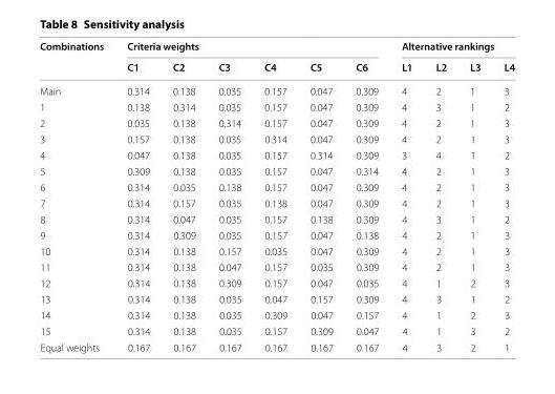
<table><thead><tr><td rowspan="2">Combinations</td><td colspan="6">Criteria weights</td><td colspan="4">Alternative rankings</td></tr><tr><td>C1</td><td>C2</td><td>C3</td><td>C4</td><td>C5</td><td>C6</td><td>L1</td><td>L2</td><td>L3</td><td>L4</td></tr></thead><tbody><tr><td>Main</td><td>0.314</td><td>0.138</td><td>0.035</td><td>0.157</td><td>0.047</td><td>0.309</td><td>4</td><td>2</td><td>1</td><td>3</td></tr><tr><td>1</td><td>0.138</td><td>0.314</td><td>0.035</td><td>0.157</td><td>0.047</td><td>0.309</td><td>4</td><td>3</td><td>1</td><td>2</td></tr><tr><td>2</td><td>0.035</td><td>0.138</td><td>0.314</td><td>0.157</td><td>0.047</td><td>0.309</td><td>4</td><td>2</td><td>1</td><td>3</td></tr><tr><td>3</td><td>0.157</td><td>0.138</td><td>0.035</td><td>0.314</td><td>0.047</td><td>0.309</td><td>4</td><td>2</td><td>1</td><td>3</td></tr><tr><td>4</td><td>0.047</td><td>0.138</td><td>0.035</td><td>0.157</td><td>0.314</td><td>0.309</td><td>3</td><td>4</td><td>1</td><td>2</td></tr><tr><td>5</td><td>0.309</td><td>0.138</td><td>0.035</td><td>0.157</td><td>0.047</td><td>0.314</td><td>4</td><td>2</td><td>1</td><td>3</td></tr><tr><td>6</td><td>0.314</td><td>0.035</td><td>0.138</td><td>0.157</td><td>0.047</td><td>0.309</td><td>4</td><td>2</td><td>1</td><td>3</td></tr><tr><td>7</td><td>0.314</td><td>0.157</td><td>0.035</td><td>0.138</td><td>0.047</td><td>0.309</td><td>4</td><td>2</td><td>1</td><td>3</td></tr><tr><td>8</td><td>0.314</td><td>0.047</td><td>0.035</td><td>0.157</td><td>0.138</td><td>0.309</td><td>4</td><td>3</td><td>1</td><td>2</td></tr><tr><td>9</td><td>0.314</td><td>0.309</td><td>0.035</td><td>0.157</td><td>0.047</td><td>0.138</td><td>4</td><td>2</td><td>1</td><td>3</td></tr><tr><td>10</td><td>0.314</td><td>0.138</td><td>0.157</td><td>0.035</td><td>0.047</td><td>0.309</td><td>4</td><td>2</td><td>1</td><td>3</td></tr><tr><td>11</td><td>0.314</td><td>0.138</td><td>0.047</td><td>0.157</td><td>0.035</td><td>0.309</td><td>4</td><td>2</td><td>1</td><td>3</td></tr><tr><td>12</td><td>0.314</td><td>0.138</td><td>0.309</td><td>0.157</td><td>0.047</td><td>0.035</td><td>4</td><td>1</td><td>2</td><td>3</td></tr><tr><td>13</td><td>0.314</td><td>0.138</td><td>0.035</td><td>0.047</td><td>0.157</td><td>0.309</td><td>4</td><td>3</td><td>1</td><td>2</td></tr><tr><td>14</td><td>0.314</td><td>0.138</td><td>0.035</td><td>0.309</td><td>0.047</td><td>0.157</td><td>4</td><td>1</td><td>2</td><td>3</td></tr><tr><td>15</td><td>0.314</td><td>0.138</td><td>0.035</td><td>0.157</td><td>0.309</td><td>0.047</td><td>4</td><td>1</td><td>3</td><td>2</td></tr><tr><td>Equal weights</td><td>0.167</td><td>0.167</td><td>0.167</td><td>0.167</td><td>0.167</td><td>0.167</td><td>4</td><td>3</td><td>2</td><td>1</td></tr></tbody></table>